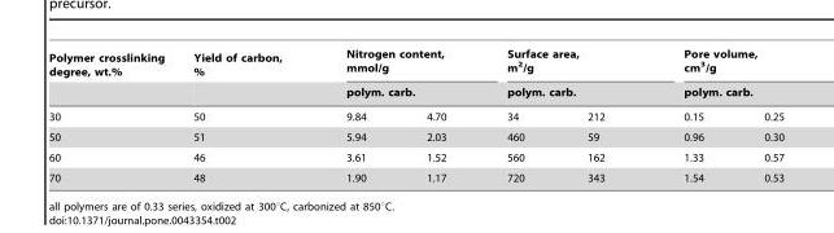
<table><thead><tr><td rowspan="3">Polymer crosslinking degree, wt.% 30</td><td rowspan="3">Yield of carbon, % 50</td><td rowspan="2" colspan="2">Nitrogen content, mmol/g polym. carb.</td><td rowspan="2" colspan="2">Surface area, m<sup>2</sup>/g polym. carb.</td><td rowspan="2" colspan="2">Pore volume, cm<sup>3</sup>/g polym. carb.</td></tr><tr></tr><tr><td>9.84</td><td>4.70</td><td>34</td><td>212</td><td>0.15</td><td>0.25</td></tr></thead><tbody><tr><td>50</td><td>51</td><td>5.94</td><td>2.03</td><td>460</td><td>59</td><td>0.96</td><td>0.30</td></tr><tr><td>60</td><td>46</td><td>3.61</td><td>1.52</td><td>560</td><td>162</td><td>1.33</td><td>0.57</td></tr><tr><td>70</td><td>48</td><td>1.90</td><td>1.17</td><td>720</td><td>343</td><td>1.54</td><td>0.53</td></tr></tbody></table>